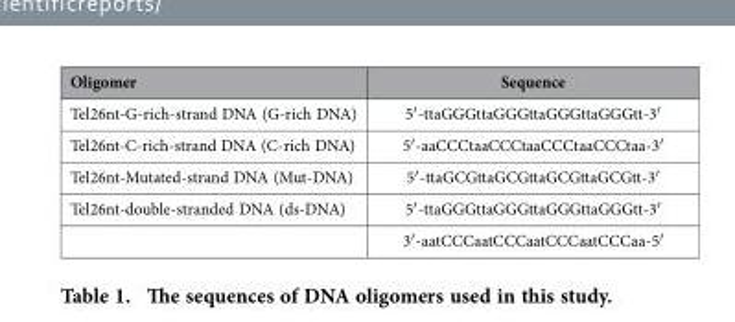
<table><thead><tr><td>Oligomer</td><td>Sequence</td></tr></thead><tbody><tr><td>Tel26nt-G-rich-strand DNA (G-rich DNA)</td><td>5′ -ttaGGGttaGGGttaGGGttaGGGtt-3′</td></tr><tr><td>Tel26nt-C-rich-strand DNA (C-rich DNA)</td><td>5′ -aaCCCtaaCCCtaaCCCtaaCCCtaa-3′</td></tr><tr><td>Tel26nt-Mutated-strand DNA (Mut-DNA)</td><td>5′ -ttaGCGttaGCGttaGCGttaGCGtt-3′</td></tr><tr><td rowspan="2">Tel26nt-double-stranded DNA (ds-DNA)</td><td>5′ -ttaGGGttaGGGttaGGGttaGGGtt-3′</td></tr><tr><td>3′ -aatCCCaatCCCaatCCCaatCCCaa-5′</td></tr></tbody></table>